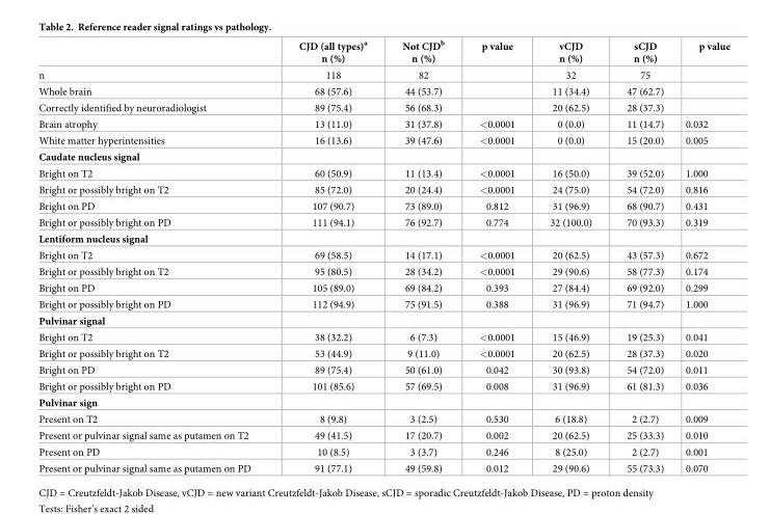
<table><thead><tr><td></td><td>CJD (all types)<sup>a</sup> n (%)</td><td>Not CJD<sup>b</sup> n (%)</td><td>p value</td><td>vCJD n (%)</td><td>sCJD n (%)</td><td>p value</td></tr></thead><tbody><tr><td>n</td><td>118</td><td>82</td><td></td><td>32</td><td>75</td><td></td></tr><tr><td>Whole brain</td><td>68 (57.6)</td><td>44 (53.7)</td><td></td><td>11 (34.4)</td><td>47 (62.7)</td><td></td></tr><tr><td>Correctly identified by neuroradiologist</td><td>89 (75.4)</td><td>56 (68.3)</td><td></td><td>20 (62.5)</td><td>28 (37.3)</td><td></td></tr><tr><td>Brain atrophy</td><td>13 (11.0)</td><td>31 (37.8)</td><td>&lt;0.0001</td><td>0 (0.0)</td><td>11 (14.7)</td><td>0.032</td></tr><tr><td>White matter hyperintensities</td><td>16 (13.6)</td><td>39 (47.6)</td><td>&lt;0.0001</td><td>0 (0.0)</td><td>15 (20.0)</td><td>0.005</td></tr><tr><td colspan="7">Caudate nucleus signal</td></tr><tr><td>Bright on T2</td><td>60 (50.9)</td><td>11 (13.4)</td><td>&lt;0.0001</td><td>16 (50.0)</td><td>39 (52.0)</td><td>1.000</td></tr><tr><td>Bright or possibly bright on T2</td><td>85 (72.0)</td><td>20 (24.4)</td><td>&lt;0.0001</td><td>24 (75.0)</td><td>54 (72.0)</td><td>0.816</td></tr><tr><td>Bright on PD</td><td>107 (90.7)</td><td>73 (89.0)</td><td>0.812</td><td>31 (96.9)</td><td>68 (90.7)</td><td>0.431</td></tr><tr><td>Bright or possibly bright on PD</td><td>111 (94.1)</td><td>76 (92.7)</td><td>0.774</td><td>32 (100.0)</td><td>70 (93.3)</td><td>0.319</td></tr><tr><td colspan="7">Lentiform nucleus signal</td></tr><tr><td>Bright on T2</td><td>69 (58.5)</td><td>14 (17.1)</td><td>&lt;0.0001</td><td>20 (62.5)</td><td>43 (57.3)</td><td>0.672</td></tr><tr><td>Bright or possibly bright on T2</td><td>95 (80.5)</td><td>28 (34.2)</td><td>&lt;0.0001</td><td>29 (90.6)</td><td>58 (77.3)</td><td>0.174</td></tr><tr><td>Bright on PD</td><td>105 (89.0)</td><td>69 (84.2)</td><td>0.393</td><td>27 (84.4)</td><td>69 (92.0)</td><td>0.299</td></tr><tr><td>Bright or possibly bright on PD</td><td>112 (94.9)</td><td>75 (91.5)</td><td>0.388</td><td>31 (96.9)</td><td>71 (94.7)</td><td>1.000</td></tr><tr><td colspan="7">Pulvinar signal</td></tr><tr><td>Bright on T2</td><td>38 (32.2)</td><td>6 (7.3)</td><td>&lt;0.0001</td><td>15 (46.9)</td><td>19 (25.3)</td><td>0.041</td></tr><tr><td>Bright or possibly bright on T2</td><td>53 (44.9)</td><td>9 (11.0)</td><td>&lt;0.0001</td><td>20 (62.5)</td><td>28 (37.3)</td><td>0.020</td></tr><tr><td>Bright on PD</td><td>89 (75.4)</td><td>50 (61.0)</td><td>0.042</td><td>30 (93.8)</td><td>54 (72.0)</td><td>0.011</td></tr><tr><td>Bright or possibly bright on PD</td><td>101 (85.6)</td><td>57 (69.5)</td><td>0.008</td><td>31 (96.9)</td><td>61 (81.3)</td><td>0.036</td></tr><tr><td colspan="7">Pulvinar sign</td></tr><tr><td>Present on T2</td><td>8 (9.8)</td><td>3 (2.5)</td><td>0.530</td><td>6 (18.8)</td><td>2 (2.7)</td><td>0.009</td></tr><tr><td>Present or pulvinar signal same as putamen on T2</td><td>49 (41.5)</td><td>17 (20.7)</td><td>0.002</td><td>20 (62.5)</td><td>25 (33.3)</td><td>0.010</td></tr><tr><td>Present on PD</td><td>10 (8.5)</td><td>3 (3.7)</td><td>0.246</td><td>8 (25.0)</td><td>2 (2.7)</td><td>0.001</td></tr><tr><td>Present or pulvinar signal same as putamen on PD</td><td>91 (77.1)</td><td>49 (59.8)</td><td>0.012</td><td>29 (90.6)</td><td>55 (73.3)</td><td>0.070</td></tr></tbody></table>